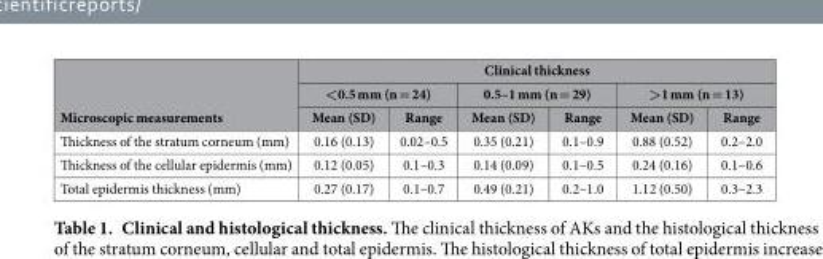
<table><thead><tr><td rowspan="3">Microscopic measurements</td><td colspan="6">Clinical thickness</td></tr><tr><td colspan="2">&lt;0.5 mm (n = 24)</td><td colspan="2">0.5–1 mm (n = 29)</td><td colspan="2">&gt;1 mm (n = 13)</td></tr><tr><td>Mean (SD)</td><td>Range</td><td>Mean (SD)</td><td>Range</td><td>Mean (SD)</td><td>Range</td></tr></thead><tbody><tr><td>Thickness of the stratum corneum (mm)</td><td>0.16 (0.13)</td><td>0.02–0.5</td><td>0.35 (0.21)</td><td>0.1–0.9</td><td>0.88 (0.52)</td><td>0.2–2.0</td></tr><tr><td>Thickness of the cellular epidermis (mm)</td><td>0.12 (0.05)</td><td>0.1–0.3</td><td>0.14 (0.09)</td><td>0.1–0.5</td><td>0.24 (0.16)</td><td>0.1–0.6</td></tr><tr><td>Total epidermis thickness (mm)</td><td>0.27 (0.17)</td><td>0.1–0.7</td><td>0.49 (0.21)</td><td>0.2–1.0</td><td>1.12 (0.50)</td><td>0.3–2.3</td></tr></tbody></table>